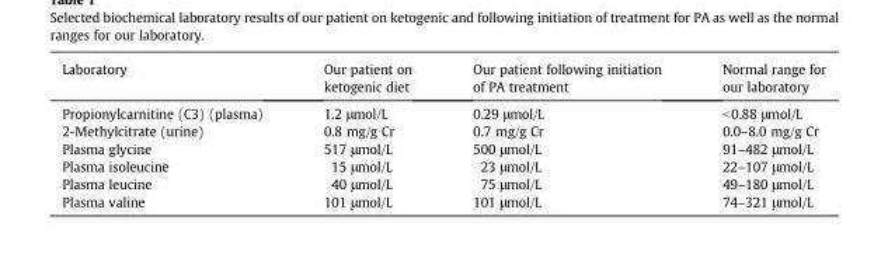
<table><thead><tr><td>Laboratory</td><td>Our patient on ketogenic diet</td><td>Our patient following initiation of PA treatment</td><td>Normal range for our laboratory</td></tr></thead><tbody><tr><td>Propionylcarnitine (C3) (plasma)</td><td>1.2 μmol/L</td><td>0.29 μmol/L</td><td>&lt;0.88 μmol/L</td></tr><tr><td>2-Methylcitrate (urine)</td><td>0.8 mg/g Cr</td><td>0.7 mg/g Cr</td><td>0.0–8.0 mg/g Cr</td></tr><tr><td>Plasma glycine</td><td>517 μmol/L</td><td>500 μmol/L</td><td>91–482 μmol/L</td></tr><tr><td>Plasma isoleucine</td><td>15 μmol/L</td><td>23 μmol/L</td><td>22–107 μmol/L</td></tr><tr><td>Plasma leucine</td><td>40 μmol/L</td><td>75 μmol/L</td><td>49–180 μmol/L</td></tr><tr><td>Plasma valine</td><td>101 μmol/L</td><td>101 μmol/L</td><td>74–321 μmol/L</td></tr></tbody></table>